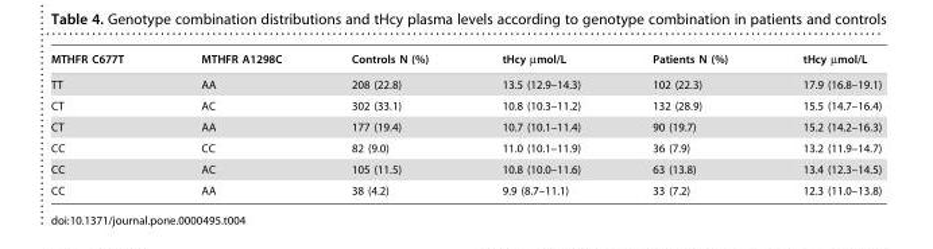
<table><thead><tr><td>MTHFR C677T</td><td>MTHFR A1298C</td><td>Controls N (%)</td><td>tHcy µmol/L</td><td>Patients N (%)</td><td>tHcy µmol/L</td></tr></thead><tbody><tr><td>TT</td><td>AA</td><td>208 (22.8)</td><td>13.5 (12.9–14.3)</td><td>102 (22.3)</td><td>17.9 (16.8–19.1)</td></tr><tr><td>CT</td><td>AC</td><td>302 (33.1)</td><td>10.8 (10.3–11.2)</td><td>132 (28.9)</td><td>15.5 (14.7–16.4)</td></tr><tr><td>CT</td><td>AA</td><td>177 (19.4)</td><td>10.7 (10.1–11.4)</td><td>90 (19.7)</td><td>15.2 (14.2–16.3)</td></tr><tr><td>CC</td><td>CC</td><td>82 (9.0)</td><td>11.0 (10.1–11.9)</td><td>36 (7.9)</td><td>13.2 (11.9–14.7)</td></tr><tr><td>CC</td><td>AC</td><td>105 (11.5)</td><td>10.8 (10.0–11.6)</td><td>63 (13.8)</td><td>13.4 (12.3–14.5)</td></tr><tr><td>CC</td><td>AA</td><td>38 (4.2)</td><td>9.9 (8.7–11.1)</td><td>33 (7.2)</td><td>12.3 (11.0–13.8)</td></tr></tbody></table>